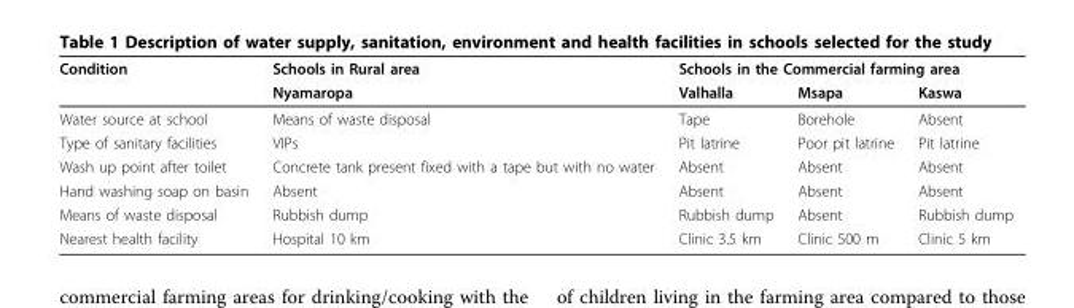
<table><thead><tr><td rowspan="2">Condition</td><td rowspan="2">Schools in Rural area Nyamaropa</td><td colspan="3">Schools in the Commercial farming area</td></tr><tr><td>Valhalla</td><td>Msapa</td><td>Kaswa</td></tr></thead><tbody><tr><td>Water source at school</td><td>Means of waste disposal</td><td>Tape</td><td>Borehole</td><td>Absent</td></tr><tr><td>Type of sanitary facilities</td><td>VIPs</td><td>Pit latrine</td><td>Poor pit latrine</td><td>Pit latrine</td></tr><tr><td>Wash up point after toilet</td><td>Concrete tank present fixed with a tape but with no water</td><td>Absent</td><td>Absent</td><td>Absent</td></tr><tr><td>Hand washing soap on basin</td><td>Absent</td><td>Absent</td><td>Absent</td><td>Absent</td></tr><tr><td>Means of waste disposal</td><td>Rubbish dump</td><td>Rubbish dump</td><td>Absent</td><td>Rubbish dump</td></tr><tr><td>Nearest health facility</td><td>Hospital 10 km</td><td>Clinic 3.5 km</td><td>Clinic 500 m</td><td>Clinic 5 km</td></tr></tbody></table>